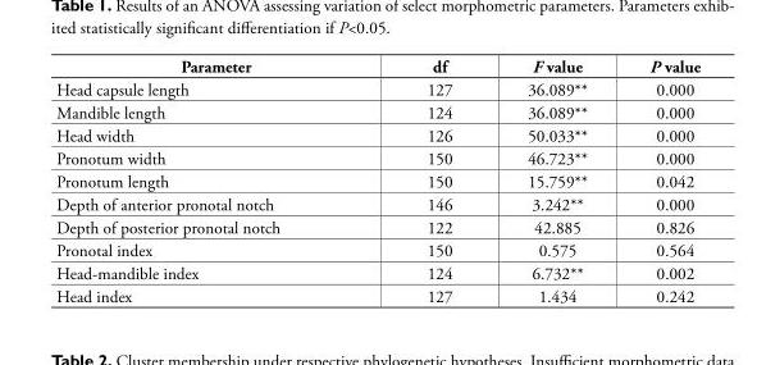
<table><thead><tr><td>Parameter</td><td>df</td><td>F value</td><td>P value</td></tr></thead><tbody><tr><td>Head capsule length</td><td>127</td><td>36.089**</td><td>0.000</td></tr><tr><td>Mandible length</td><td>124</td><td>36.089**</td><td>0.000</td></tr><tr><td>Head width</td><td>126</td><td>50.033**</td><td>0.000</td></tr><tr><td>Pronotum width</td><td>150</td><td>46.723**</td><td>0.000</td></tr><tr><td>Pronotum length</td><td>150</td><td>15.759**</td><td>0.042</td></tr><tr><td>Depth of anterior pronotal notch</td><td>146</td><td>3.242**</td><td>0.000</td></tr><tr><td>Depth of posterior pronotal notch</td><td>122</td><td>42.885</td><td>0.826</td></tr><tr><td>Pronotal index</td><td>150</td><td>0.575</td><td>0.564</td></tr><tr><td>Head-mandible index</td><td>124</td><td>6.732**</td><td>0.002</td></tr><tr><td>Head index</td><td>127</td><td>1.434</td><td>0.242</td></tr></tbody></table>